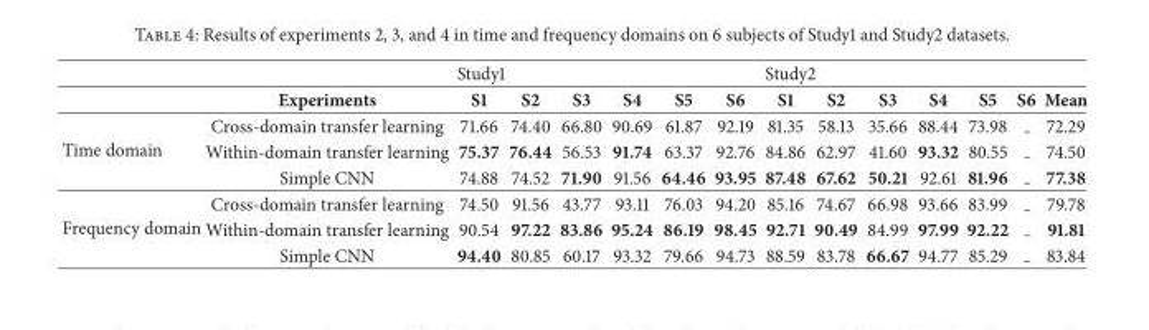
<table><thead><tr><td rowspan="2"></td><td rowspan="2">Experiments</td><td colspan="6">Study1</td><td colspan="6">Study2</td><td rowspan="2">Mean</td></tr><tr><td>S1</td><td>S2</td><td>S3</td><td>S4</td><td>S5</td><td>S6</td><td>S1</td><td>S2</td><td>S3</td><td>S4</td><td>S5</td><td>S6</td></tr></thead><tbody><tr><td rowspan="3">Time domain</td><td>Cross-domain transfer learning</td><td>71.66</td><td>74.40</td><td>66.80</td><td>90.69</td><td>61.87</td><td>92.19</td><td>81.35</td><td>58.13</td><td>35.66</td><td>88.44</td><td>73.98</td><td></td><td>72.29</td></tr><tr><td>Within-domain transfer learning</td><td>75.37</td><td>76.44</td><td>56.53</td><td>91.74</td><td>63.37</td><td>92.76</td><td>84.86</td><td>62.97</td><td>41.60</td><td>93.32</td><td>80.55</td><td></td><td>74.50</td></tr><tr><td>Simple CNN</td><td>74.88</td><td>74.52</td><td>71.90</td><td>91.56</td><td>64.46</td><td>93.95</td><td>87.48</td><td>67.62</td><td>50.21</td><td>92.61</td><td>81.96</td><td></td><td>77.38</td></tr><tr><td rowspan="3">Frequency domain</td><td>Cross-domain transfer learning</td><td>74.50</td><td>91.56</td><td>43.77</td><td>93.11</td><td>76.03</td><td>94.20</td><td>85.16</td><td>74.67</td><td>66.98</td><td>93.66</td><td>83.99</td><td></td><td>79.78</td></tr><tr><td>Within-domain transfer learning</td><td>90.54</td><td>97.22</td><td>83.86</td><td>95.24</td><td>86.19</td><td>98.45</td><td>92.71</td><td>90.49</td><td>84.99</td><td>97.99</td><td>92.22</td><td></td><td>91.81</td></tr><tr><td>Simple CNN</td><td>94.40</td><td>80.85</td><td>60.17</td><td>93.32</td><td>79.66</td><td>94.73</td><td>88.59</td><td>83.78</td><td>66.67</td><td>94.77</td><td>85.29</td><td></td><td>83.84</td></tr></tbody></table>